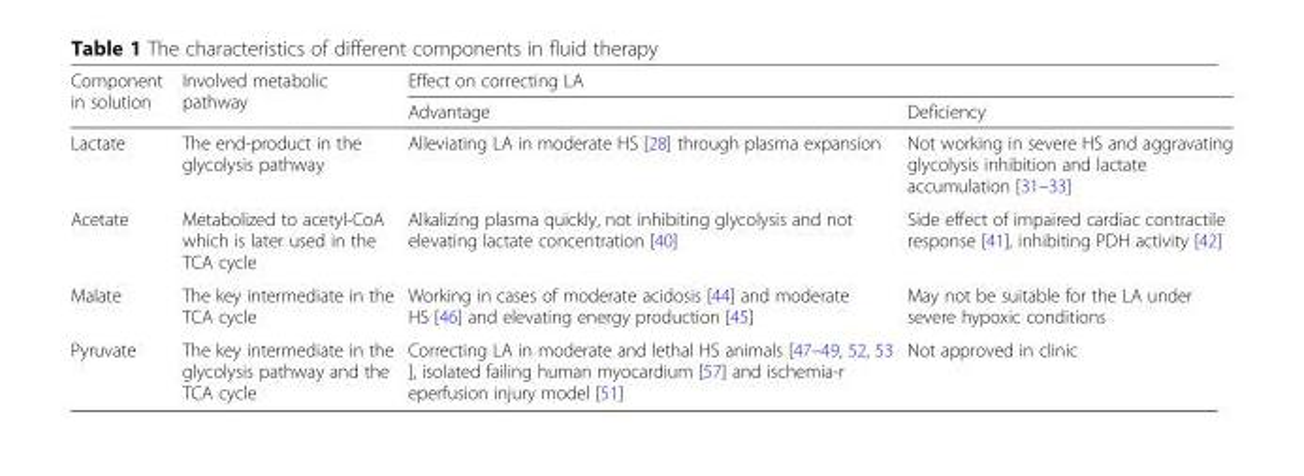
<table><thead><tr><td rowspan="2">Component in solution</td><td rowspan="2">Involved metabolic pathway</td><td colspan="2">Effect on correcting LA</td></tr><tr><td>Advantage</td><td>Deficiency</td></tr></thead><tbody><tr><td>Lactate</td><td>The end-product in the glycolysis pathway</td><td>Alleviating LA in moderate HS [28] through plasma expansion</td><td>Not working in severe HS and aggravating glycolysis inhibition and lactate accumulation [31–33]</td></tr><tr><td>Acetate</td><td>Metabolized to acetyl-CoA which is later used in the TCA cycle</td><td>Alkalizing plasma quickly, not inhibiting glycolysis and not elevating lactate concentration [40]</td><td>Side effect of impaired cardiac contractile response [41], inhibiting PDH activity [42]</td></tr><tr><td>Malate</td><td>The key intermediate in the TCA cycle</td><td>Working in cases of moderate acidosis [44] and moderate HS [46] and elevating energy production [45]</td><td>May not be suitable for the LA under severe hypoxic conditions</td></tr><tr><td>Pyruvate</td><td>The key intermediate in the glycolysis pathway and the TCA cycle</td><td>Correcting LA in moderate and lethal HS animals [47–49, 52, 53 ], isolated failing human myocardium [57] and ischemia-r eperfusion injury model [51]</td><td>Not approved in clinic</td></tr></tbody></table>